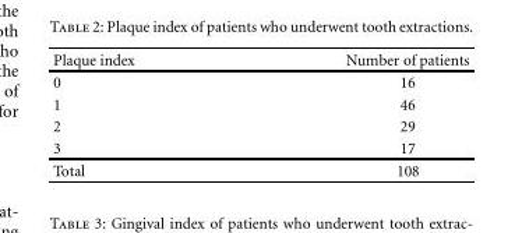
<table><thead><tr><td>Plaque index</td><td>Number of patients</td></tr></thead><tbody><tr><td>0</td><td>16</td></tr><tr><td>1</td><td>46</td></tr><tr><td>2</td><td>29</td></tr><tr><td>3</td><td>17</td></tr><tr><td>Total</td><td>108</td></tr></tbody></table>